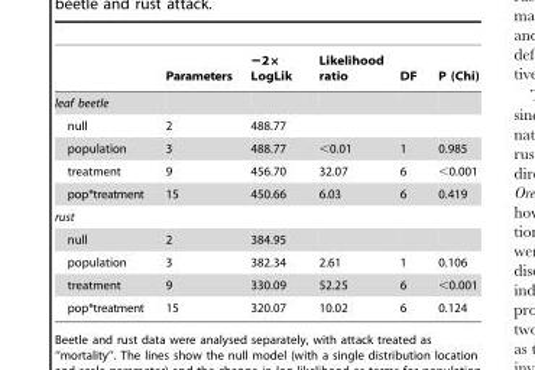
<table><thead><tr><td></td><td>Parameters</td><td>−2× LogLik</td><td>Likelihood ratio</td><td>DF</td><td>P (Chi)</td></tr></thead><tbody><tr><td colspan="6">leaf beetle</td></tr><tr><td>null</td><td>2</td><td>488.77</td><td></td><td></td><td></td></tr><tr><td>population</td><td>3</td><td>488.77</td><td>&lt;0.01</td><td>1</td><td>0.985</td></tr><tr><td>treatment</td><td>9</td><td>456.70</td><td>32.07</td><td>6</td><td>&lt;0.001</td></tr><tr><td>pop*treatment</td><td>15</td><td>450.66</td><td>6.03</td><td>6</td><td>0.419</td></tr><tr><td colspan="6">rust</td></tr><tr><td>null</td><td>2</td><td>384.95</td><td></td><td></td><td></td></tr><tr><td>population</td><td>3</td><td>382.34</td><td>2.61</td><td>1</td><td>0.106</td></tr><tr><td>treatment</td><td>9</td><td>330.09</td><td>52.25</td><td>6</td><td>&lt;0.001</td></tr><tr><td>pop*treatment</td><td>15</td><td>320.07</td><td>10.02</td><td>6</td><td>0.124</td></tr></tbody></table>